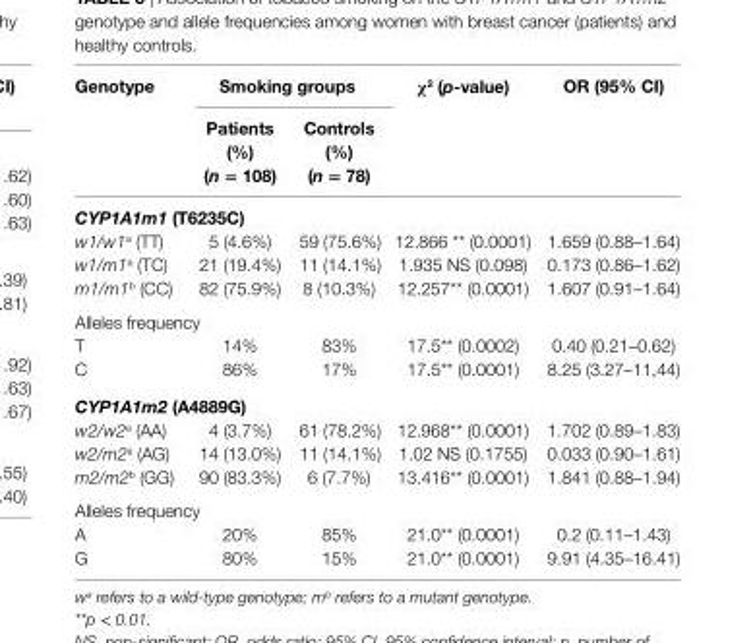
<table><thead><tr><td rowspan="2">genotype</td><td colspan="2">smoking groups</td><td rowspan="2">χ<sup>2</sup> (p-value)</td><td rowspan="2">Or (95% ci)</td></tr><tr><td>Patients (%) (n = 108)</td><td>controls (%) (n = 78)</td></tr></thead><tbody><tr><td colspan="5">CYP1A1m1 (T6235c)</td></tr><tr><td>w1/w1<sup>a</sup> (TT)</td><td>5 (4.6%)</td><td>59 (75.6%)</td><td>12.866 ** (0.0001)</td><td>1.659 (0.88–1.64)</td></tr><tr><td>w1/m1<sup>a</sup> (TC)</td><td>21 (19.4%)</td><td>11 (14.1%)</td><td>1.935 NS (0.098)</td><td>0.173 (0.86–1.62)</td></tr><tr><td>m1/m1<sup>b</sup> (CC)</td><td>82 (75.9%)</td><td>8 (10.3%)</td><td>12.257** (0.0001)</td><td>1.607 (0.91–1.64)</td></tr><tr><td colspan="5">Alleles frequency</td></tr><tr><td>T</td><td>14%</td><td>83%</td><td>17.5** (0.0002)</td><td>0.40 (0.21–0.62)</td></tr><tr><td>C</td><td>86%</td><td>17%</td><td>17.5** (0.0001)</td><td>8.25 (3.27–11,44)</td></tr><tr><td colspan="5">CYP1A1m2 (a4889g)</td></tr><tr><td>w2/w2<sup>a</sup> (AA)</td><td>4 (3.7%)</td><td>61 (78.2%)</td><td>12.968** (0.0001)</td><td>1.702 (0.89–1.83)</td></tr><tr><td>w2/m2<sup>a</sup> (AG)</td><td>14 (13.0%)</td><td>11 (14.1%)</td><td>1.02 NS (0.1755)</td><td>0.033 (0.90–1.61)</td></tr><tr><td>m2/m2<sup>b</sup> (GG)</td><td>90 (83.3%)</td><td>6 (7.7%)</td><td>13.416** (0.0001)</td><td>1.841 (0.88–1.94)</td></tr><tr><td colspan="5">Alleles frequency</td></tr><tr><td>A</td><td>20%</td><td>85%</td><td>21.0** (0.0001)</td><td>0.2 (0.11–1.43)</td></tr><tr><td>G</td><td>80%</td><td>15%</td><td>21.0** (0.0001)</td><td>9.91 (4.35–16.41)</td></tr></tbody></table>